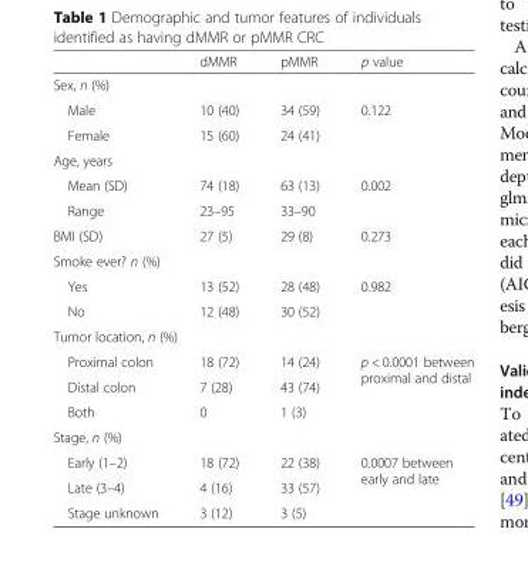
<table><thead><tr><td></td><td>dMMR</td><td>pMMR</td><td>p value</td></tr></thead><tbody><tr><td colspan="4">Sex, n (%)</td></tr><tr><td>Male</td><td>10 (40)</td><td>34 (59)</td><td rowspan="2">0.122</td></tr><tr><td>Female</td><td>15 (60)</td><td>24 (41)</td></tr><tr><td colspan="4">Age, years</td></tr><tr><td>Mean (SD)</td><td>74 (18)</td><td>63 (13)</td><td rowspan="2">0.002</td></tr><tr><td>Range</td><td>23–95</td><td>33–90</td></tr><tr><td>BMI (SD)</td><td>27 (5)</td><td>29 (8)</td><td>0.273</td></tr><tr><td colspan="4">Smoke ever? n (%)</td></tr><tr><td>Yes</td><td>13 (52)</td><td>28 (48)</td><td rowspan="2">0.982</td></tr><tr><td>No</td><td>12 (48)</td><td>30 (52)</td></tr><tr><td colspan="4">Tumor location, n (%)</td></tr><tr><td>Proximal colon</td><td>18 (72)</td><td>14 (24)</td><td rowspan="3">p &lt; 0.0001 between proximal and distal</td></tr><tr><td>Distal colon</td><td>7 (28)</td><td>43 (74)</td></tr><tr><td>Both</td><td>0</td><td>1 (3)</td></tr><tr><td colspan="4">Stage, n (%)</td></tr><tr><td>Early (1–2)</td><td>18 (72)</td><td>22 (38)</td><td rowspan="3">0.0007 between early and late</td></tr><tr><td>Late (3–4)</td><td>4 (16)</td><td>33 (57)</td></tr><tr><td>Stage unknown</td><td>3 (12)</td><td>3 (5)</td></tr></tbody></table>